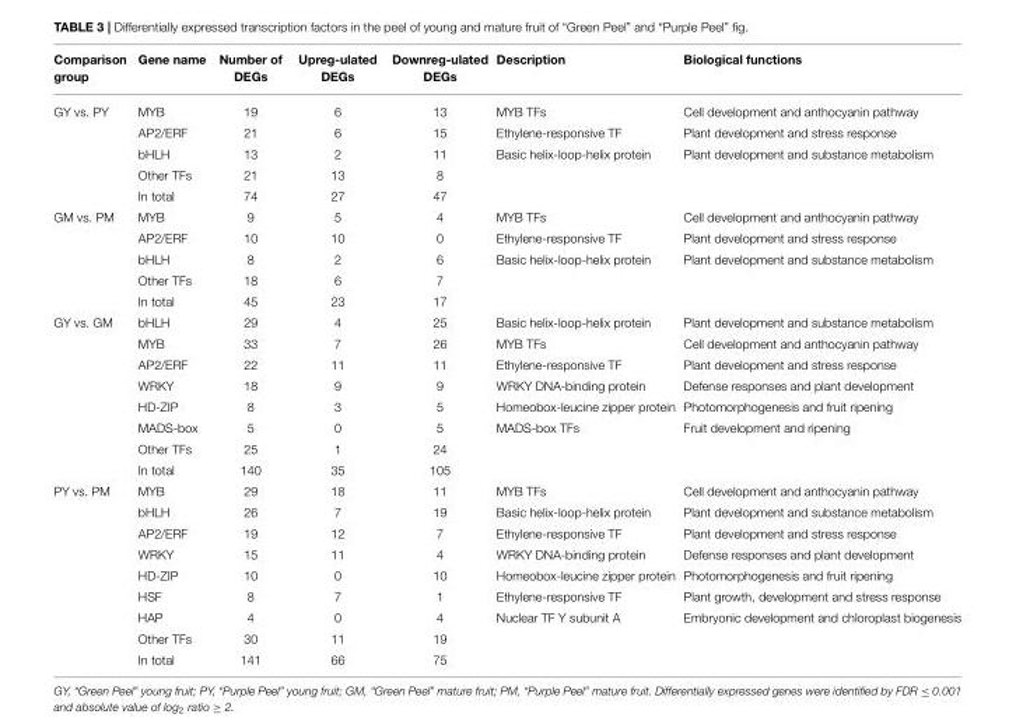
<table><thead><tr><td>Comparison group</td><td>Gene name</td><td>Number of DEGs</td><td>Upreg-ulated DEGs</td><td>Downreg-ulated DEGs</td><td>Description</td><td>Biological functions</td></tr></thead><tbody><tr><td rowspan="5">GY vs. PY</td><td>MYB</td><td>19</td><td>6</td><td>13</td><td>MYB TFs</td><td>Cell development and anthocyanin pathway</td></tr><tr><td>AP2/ERF</td><td>21</td><td>6</td><td>15</td><td>Ethylene-responsive TF</td><td>Plant development and stress response</td></tr><tr><td>bHLH</td><td>13</td><td>2</td><td>11</td><td>Basic helix-loop-helix protein</td><td>Plant development and substance metabolism</td></tr><tr><td>Other TFs</td><td>21</td><td>13</td><td>8</td><td></td><td></td></tr><tr><td>In total</td><td>74</td><td>27</td><td>47</td><td></td><td></td></tr><tr><td rowspan="5">GM vs. PM</td><td>MYB</td><td>9</td><td>5</td><td>4</td><td>MYB TFs</td><td>Cell development and anthocyanin pathway</td></tr><tr><td>AP2/ERF</td><td>10</td><td>10</td><td>0</td><td>Ethylene-responsive TF</td><td>Plant development and stress response</td></tr><tr><td>bHLH</td><td>8</td><td>2</td><td>6</td><td>Basic helix-loop-helix protein</td><td>Plant development and substance metabolism</td></tr><tr><td>Other TFs</td><td>18</td><td>6</td><td>7</td><td></td><td></td></tr><tr><td>In total</td><td>45</td><td>23</td><td>17</td><td></td><td></td></tr><tr><td rowspan="8">GY vs. GM</td><td>bHLH</td><td>29</td><td>4</td><td>25</td><td>Basic helix-loop-helix protein</td><td>Plant development and substance metabolism</td></tr><tr><td>MYB</td><td>33</td><td>7</td><td>26</td><td>MYB TFs</td><td>Cell development and anthocyanin pathway</td></tr><tr><td>AP2/ERF</td><td>22</td><td>11</td><td>11</td><td>Ethylene-responsive TF</td><td>Plant development and stress response</td></tr><tr><td>WRKY</td><td>18</td><td>9</td><td>9</td><td>WRKY DNA-binding protein</td><td>Defense responses and plant development</td></tr><tr><td>HD-ZIP</td><td>8</td><td>3</td><td>5</td><td>Homeobox-leucine zipper protein</td><td>Photomorphogenesis and fruit ripening</td></tr><tr><td>MADS-box</td><td>5</td><td>0</td><td>5</td><td>MADS-box TFs</td><td>Fruit development and ripening</td></tr><tr><td>Other TFs</td><td>25</td><td>1</td><td>24</td><td></td><td></td></tr><tr><td>In total</td><td>140</td><td>35</td><td>105</td><td></td><td></td></tr><tr><td rowspan="9">PY vs. PM</td><td>MYB</td><td>29</td><td>18</td><td>11</td><td>MYB TFs</td><td>Cell development and anthocyanin pathway</td></tr><tr><td>bHLH</td><td>26</td><td>7</td><td>19</td><td>Basic helix-loop-helix protein</td><td>Plant development and substance metabolism</td></tr><tr><td>AP2/ERF</td><td>19</td><td>12</td><td>7</td><td>Ethylene-responsive TF</td><td>Plant development and stress response</td></tr><tr><td>WRKY</td><td>15</td><td>11</td><td>4</td><td>WRKY DNA-binding protein</td><td>Defense responses and plant development</td></tr><tr><td>HD-ZIP</td><td>10</td><td>0</td><td>10</td><td>Homeobox-leucine zipper protein</td><td>Photomorphogenesis and fruit ripening</td></tr><tr><td>HSF</td><td>8</td><td>7</td><td>1</td><td>Ethylene-responsive TF</td><td>Plant growth, development and stress response</td></tr><tr><td>HAP</td><td>4</td><td>0</td><td>4</td><td>Nuclear TF Y subunit A</td><td>Embryonic development and chloroplast biogenesis</td></tr><tr><td>Other TFs</td><td>30</td><td>11</td><td>19</td><td></td><td></td></tr><tr><td>In total</td><td>141</td><td>66</td><td>75</td><td></td><td></td></tr></tbody></table>